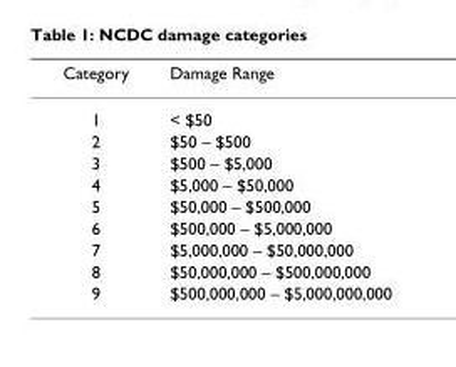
<table><thead><tr><td>Category</td><td>Damage Range</td></tr></thead><tbody><tr><td>1</td><td>&lt; $50</td></tr><tr><td>2</td><td>$50 – $500</td></tr><tr><td>3</td><td>$500 – $5,000</td></tr><tr><td>4</td><td>$5,000 – $50,000</td></tr><tr><td>5</td><td>$50,000 – $500,000</td></tr><tr><td>6</td><td>$500,000 – $5,000,000</td></tr><tr><td>7</td><td>$5,000,000 – $50,000,000</td></tr><tr><td>8</td><td>$50,000,000 – $500,000,000</td></tr><tr><td>9</td><td>$500,000,000 – $5,000,000,000</td></tr></tbody></table>